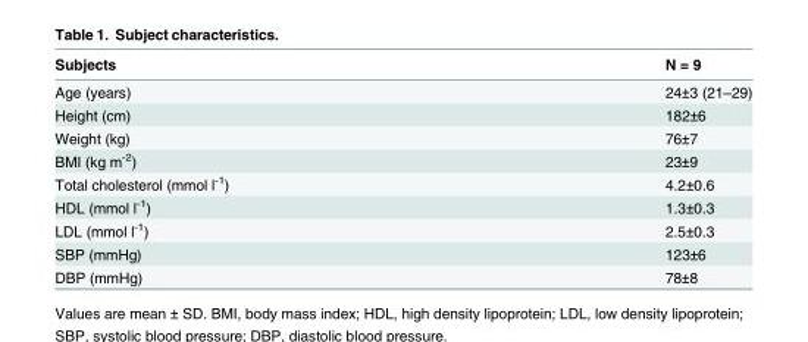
<table><thead><tr><td>Subjects</td><td>N = 9</td></tr></thead><tbody><tr><td>Age (years)</td><td>24±3 (21–29)</td></tr><tr><td>Height (cm)</td><td>182±6</td></tr><tr><td>Weight (kg)</td><td>76±7</td></tr><tr><td>BMI (kg m<sup>-2</sup>)</td><td>23±9</td></tr><tr><td>Total cholesterol (mmol l<sup>-1</sup>)</td><td>4.2±0.6</td></tr><tr><td>HDL (mmol l<sup>-1</sup>)</td><td>1.3±0.3</td></tr><tr><td>LDL (mmol l<sup>-1</sup>)</td><td>2.5±0.3</td></tr><tr><td>SBP (mmHg)</td><td>123±6</td></tr><tr><td>DBP (mmHg)</td><td>78±8</td></tr></tbody></table>